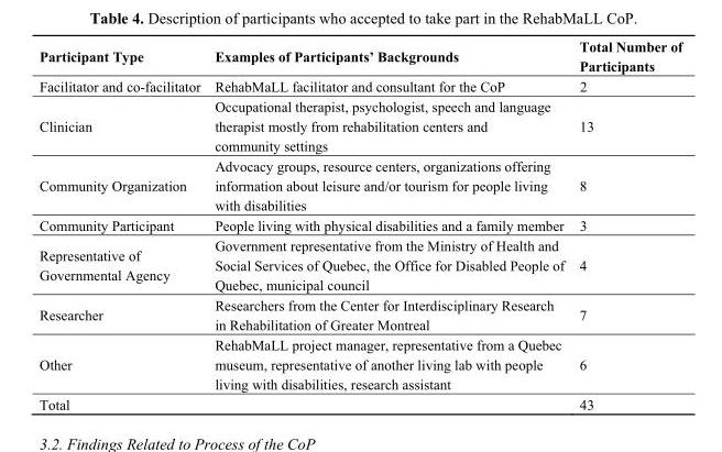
<table><thead><tr><td>Participant Type</td><td>Examples of Participants’ Backgrounds</td><td>Total Number of Participants</td></tr></thead><tbody><tr><td>Facilitator and co-facilitator</td><td>RehabMaLL facilitator and consultant for the CoP</td><td>2</td></tr><tr><td>Clinician</td><td>Occupational therapist, psychologist, speech and language therapist mostly from rehabilitation centers and community settings</td><td>13</td></tr><tr><td>Community Organization</td><td>Advocacy groups, resource centers, organizations offering information about leisure and/or tourism for people living with disabilities</td><td>8</td></tr><tr><td>Community Participant</td><td>People living with physical disabilities and a family member</td><td>3</td></tr><tr><td>Representative of Governmental Agency</td><td>Government representative from the Ministry of Health and Social Services of Quebec, the Office for Disabled People of Quebec, municipal council</td><td>4</td></tr><tr><td>Researcher</td><td>Researchers from the Center for Interdisciplinary Research in Rehabilitation of Greater Montreal</td><td>7</td></tr><tr><td>Other</td><td>RehabMaLL project manager, representative from a Quebec museum, representative of another living lab with people living with disabilities, research assistant</td><td>6</td></tr><tr><td colspan="2">Total</td><td>43</td></tr></tbody></table>